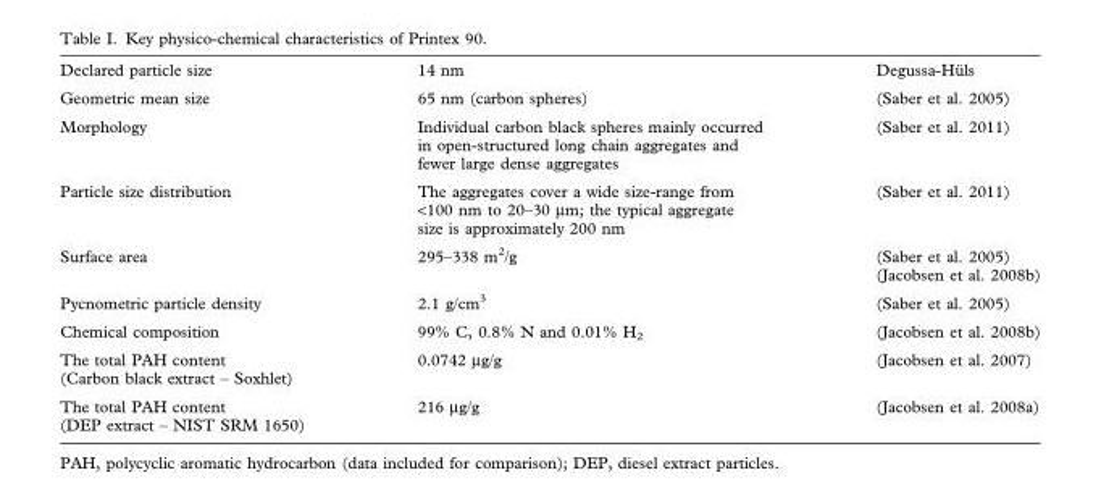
<table><tbody><tr><td>Declared particle size</td><td>14 nm</td><td>Degussa-Hüls</td></tr><tr><td>Geometric mean size</td><td>65 nm (carbon spheres)</td><td>(Saber et al. 2005)</td></tr><tr><td>Morphology</td><td>Individual carbon black spheres mainly occurred in open-structured long chain aggregates and fewer large dense aggregates</td><td>(Saber et al. 2011)</td></tr><tr><td>Particle size distribution</td><td>The aggregates cover a wide size-range from &lt;100 nm to 20–30 mm; the typical aggregate size is approximately 200 nm</td><td>(Saber et al. 2011)</td></tr><tr><td>Surface area</td><td>295–338 m<sup>2</sup>/g</td><td>(Saber et al. 2005) (Jacobsen et al. 2008b)</td></tr><tr><td>Pycnometric particle density</td><td>2.1 g/cm<sup>3</sup></td><td>(Saber et al. 2005)</td></tr><tr><td>Chemical composition</td><td>99% C, 0.8% N and 0.01% H<sub>2</sub></td><td>(Jacobsen et al. 2008b)</td></tr><tr><td>The total PAH content (Carbon black extract – Soxhlet)</td><td>0.0742 mg/g</td><td>(Jacobsen et al. 2007)</td></tr><tr><td>The total PAH content (DEP extract – NIST SRM 1650)</td><td>216 mg/g</td><td>(Jacobsen et al. 2008a)</td></tr></tbody></table>